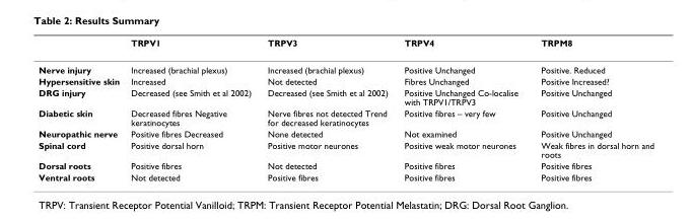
<table><thead><tr><td></td><td>TRPV1</td><td>TRPV3</td><td>TRPV4</td><td>TRPM8</td></tr></thead><tbody><tr><td>Nerve injury</td><td>Increased (brachial plexus)</td><td>Increased (brachial plexus)</td><td>Positive Unchanged</td><td>Positive. Reduced</td></tr><tr><td>Hypersensitive skin</td><td>Increased</td><td>Not detected</td><td>Fibres Unchanged</td><td>Positive Increased?</td></tr><tr><td>DRG injury</td><td>Decreased (see Smith et al 2002)</td><td>Decreased (see Smith et al 2002)</td><td>Positive Unchanged Co-localise with TRPV1/TRPV3</td><td>Positive Unchanged</td></tr><tr><td>Diabetic skin</td><td>Decreased fibres Negative keratinocytes</td><td>Nerve fibres not detected Trend for decreased keratinocytes</td><td>Positive fibres – very few</td><td>Positive Unchanged</td></tr><tr><td>Neuropathic nerve</td><td>Positive fibres Decreased</td><td>None detected</td><td>Not examined</td><td>Positive Unchanged</td></tr><tr><td>Spinal cord</td><td>Positive dorsal horn</td><td>Positive motor neurones</td><td>Positive weak motor neurones</td><td>Weak fibres in dorsal horn and roots</td></tr><tr><td>Dorsal roots</td><td>Positive fibres</td><td>Not detected</td><td>Positive fibres</td><td>Positive fibres</td></tr><tr><td>Ventral roots</td><td>Not detected</td><td>Positive fibres</td><td>Positive fibres</td><td>Positive fibres</td></tr></tbody></table>